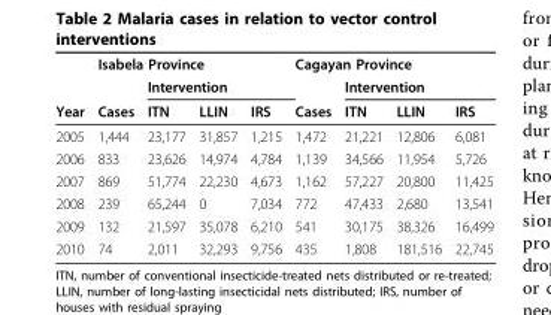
<table><thead><tr><td rowspan="3">Year</td><td colspan="4">Isabela Province</td><td colspan="4">Cagayan Province</td></tr><tr><td rowspan="2">Cases</td><td colspan="3">Intervention</td><td rowspan="2">Cases</td><td colspan="3">Intervention</td></tr><tr><td>ITN</td><td>LLIN</td><td>IRS</td><td>ITN</td><td>LLIN</td><td>IRS</td></tr></thead><tbody><tr><td>2005</td><td>1,444</td><td>23,177</td><td>31,857</td><td>1,215</td><td>1,472</td><td>21,221</td><td>12,806</td><td>6,081</td></tr><tr><td>2006</td><td>833</td><td>23,626</td><td>14,974</td><td>4,784</td><td>1,139</td><td>34,566</td><td>11,954</td><td>5,726</td></tr><tr><td>2007</td><td>869</td><td>51,774</td><td>22,230</td><td>4,673</td><td>1,162</td><td>57,227</td><td>20,800</td><td>11,425</td></tr><tr><td>2008</td><td>239</td><td>65,244</td><td>0</td><td>7,034</td><td>772</td><td>47,433</td><td>2,680</td><td>13,541</td></tr><tr><td>2009</td><td>132</td><td>21,597</td><td>35,078</td><td>6,210</td><td>541</td><td>30,175</td><td>38,326</td><td>16,499</td></tr><tr><td>2010</td><td>74</td><td>2,011</td><td>32,293</td><td>9,756</td><td>435</td><td>1,808</td><td>181,516</td><td>22,745</td></tr></tbody></table>